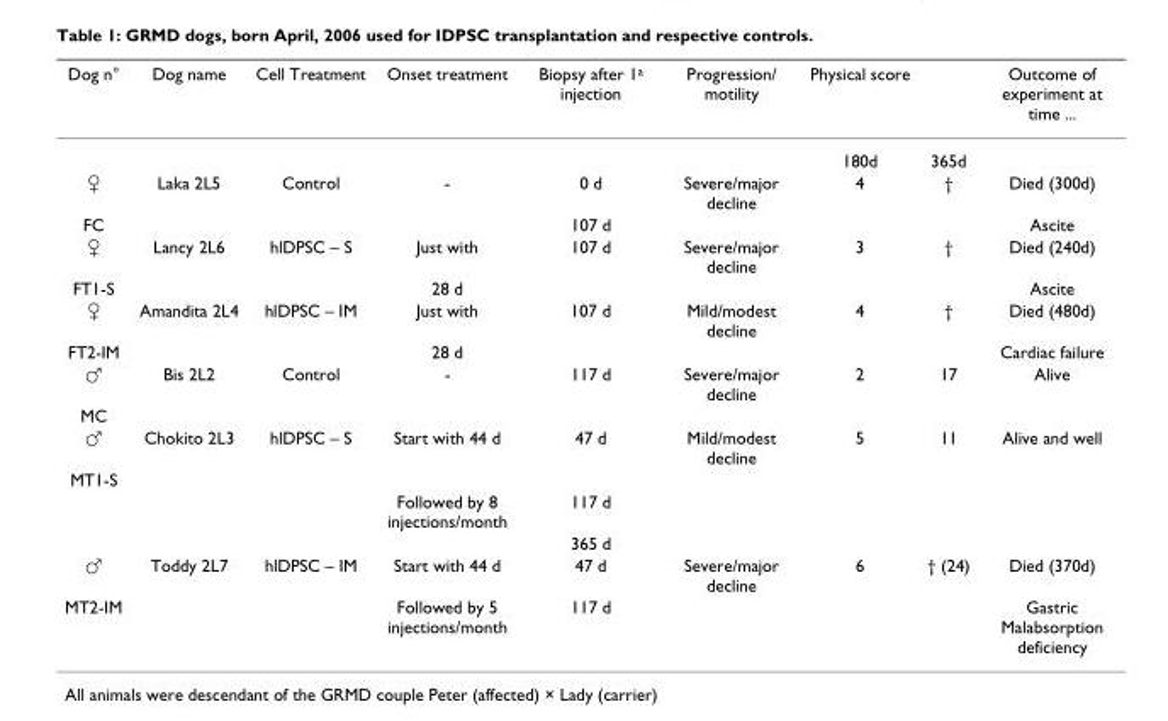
<table><thead><tr><td>Dog n°</td><td>Dog name</td><td>Cell Treatment</td><td>Onset treatment</td><td>Biopsy after 1<sup>a</sup> injection</td><td>Progression/ motility</td><td>Physical score</td><td></td><td>Outcome of experiment at time ...</td></tr></thead><tbody><tr><td></td><td></td><td></td><td></td><td></td><td></td><td>180d</td><td>365d</td><td></td></tr><tr><td>♀</td><td>Laka 2L5</td><td>Control</td><td>-</td><td>0 d</td><td>Severe/major decline</td><td>4</td><td>†</td><td>Died (300d)</td></tr><tr><td>FC</td><td></td><td></td><td></td><td>107 d</td><td></td><td></td><td></td><td>Ascite</td></tr><tr><td>♀</td><td>Lancy 2L6</td><td>hlDPSC – S</td><td>Just with</td><td>107 d</td><td>Severe/major decline</td><td>3</td><td>†</td><td>Died (240d)</td></tr><tr><td>FT1-S</td><td></td><td></td><td>28 d</td><td></td><td></td><td></td><td></td><td>Ascite</td></tr><tr><td>♀</td><td>Amandita 2L4</td><td>hlDPSC – IM</td><td>Just with</td><td>107 d</td><td>Mild/modest decline</td><td>4</td><td>†</td><td>Died (480d)</td></tr><tr><td>FT2-IM</td><td></td><td></td><td>28 d</td><td></td><td></td><td></td><td></td><td>Cardiac failure</td></tr><tr><td>♂</td><td>Bis 2L2</td><td>Control</td><td>-</td><td>117 d</td><td>Severe/major decline</td><td>2</td><td>17</td><td>Alive</td></tr><tr><td colspan="9">MC</td></tr><tr><td>♂</td><td>Chokito 2L3</td><td>hlDPSC – S</td><td>Start with 44 d</td><td>47 d</td><td>Mild/modest decline</td><td>5</td><td>11</td><td>Alive and well</td></tr><tr><td colspan="9">MT1-S</td></tr><tr><td></td><td></td><td></td><td>Followed by 8 injections/month</td><td>117 d</td><td></td><td></td><td></td><td></td></tr><tr><td></td><td></td><td></td><td></td><td>365 d</td><td></td><td></td><td></td><td></td></tr><tr><td>♂</td><td>Toddy 2L7</td><td>hlDPSC – IM</td><td>Start with 44 d</td><td>47 d</td><td>Severe/major decline</td><td>6</td><td>† (24)</td><td>Died (370d)</td></tr><tr><td>MT2-IM</td><td></td><td></td><td>Followed by 5 injections/month</td><td>117 d</td><td></td><td></td><td></td><td>Gastric Malabsorption deficiency</td></tr></tbody></table>